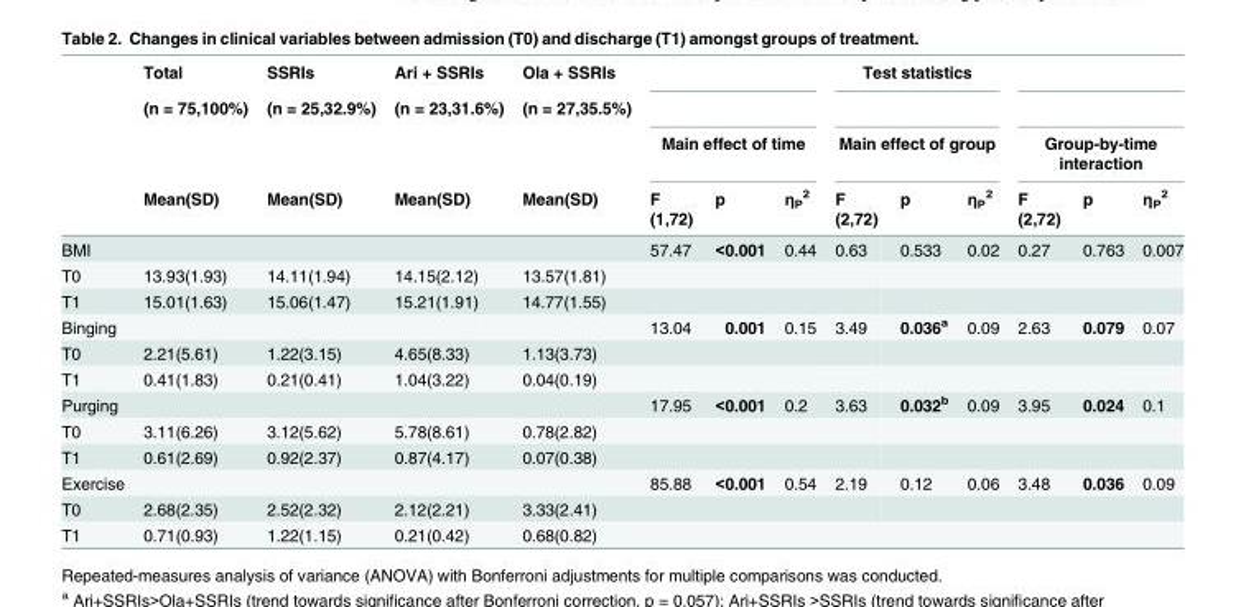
<table><thead><tr><td rowspan="4"></td><td rowspan="4">Total (n = 75,100%) Mean(SD)</td><td rowspan="4">SSRIs (n = 25,32.9%) Mean(SD)</td><td rowspan="4">Ari + SSRIs (n = 23,31.6%) Mean(SD)</td><td rowspan="4">Ola + SSRIs (n = 27,35.5%) Mean(SD)</td><td rowspan="2"></td><td rowspan="2"></td><td rowspan="2"></td><td colspan="3">Test statistics</td><td rowspan="2"></td><td rowspan="2"></td><td rowspan="2"></td></tr><tr><td></td><td></td><td></td></tr><tr><td colspan="3">Main effect of time</td><td colspan="3">Main effect of group</td><td colspan="3">Group-by-time interaction</td></tr><tr><td>F (1,72)</td><td>p</td><td>η<sub>P</sub> <sup>2</sup></td><td>F (2,72)</td><td>p</td><td>η<sub>P</sub> <sup>2</sup></td><td>F (2,72)</td><td>p</td><td>η<sub>P</sub> <sup>2</sup></td></tr></thead><tbody><tr><td>BMI</td><td></td><td></td><td></td><td></td><td>57.47</td><td>&lt;0.001</td><td>0.44</td><td>0.63</td><td>0.533</td><td>0.02</td><td>0.27</td><td>0.763</td><td>0.007</td></tr><tr><td>T0</td><td>13.93(1.93)</td><td>14.11(1.94)</td><td>14.15(2.12)</td><td>13.57(1.81)</td><td></td><td></td><td></td><td></td><td></td><td></td><td></td><td></td><td></td></tr><tr><td>T1</td><td>15.01(1.63)</td><td>15.06(1.47)</td><td>15.21(1.91)</td><td>14.77(1.55)</td><td></td><td></td><td></td><td></td><td></td><td></td><td></td><td></td><td></td></tr><tr><td>Binging</td><td></td><td></td><td></td><td></td><td>13.04</td><td>0.001</td><td>0.15</td><td>3.49</td><td>0.036<sup>a</sup></td><td>0.09</td><td>2.63</td><td>0.079</td><td>0.07</td></tr><tr><td>T0</td><td>2.21(5.61)</td><td>1.22(3.15)</td><td>4.65(8.33)</td><td>1.13(3.73)</td><td></td><td></td><td></td><td></td><td></td><td></td><td></td><td></td><td></td></tr><tr><td>T1</td><td>0.41(1.83)</td><td>0.21(0.41)</td><td>1.04(3.22)</td><td>0.04(0.19)</td><td></td><td></td><td></td><td></td><td></td><td></td><td></td><td></td><td></td></tr><tr><td>Purging</td><td></td><td></td><td></td><td></td><td>17.95</td><td>&lt;0.001</td><td>0.2</td><td>3.63</td><td>0.032<sup>b</sup></td><td>0.09</td><td>3.95</td><td>0.024</td><td>0.1</td></tr><tr><td>T0</td><td>3.11(6.26)</td><td>3.12(5.62)</td><td>5.78(8.61)</td><td>0.78(2.82)</td><td></td><td></td><td></td><td></td><td></td><td></td><td></td><td></td><td></td></tr><tr><td>T1</td><td>0.61(2.69)</td><td>0.92(2.37)</td><td>0.87(4.17)</td><td>0.07(0.38)</td><td></td><td></td><td></td><td></td><td></td><td></td><td></td><td></td><td></td></tr><tr><td>Exercise</td><td></td><td></td><td></td><td></td><td>85.88</td><td>&lt;0.001</td><td>0.54</td><td>2.19</td><td>0.12</td><td>0.06</td><td>3.48</td><td>0.036</td><td>0.09</td></tr><tr><td>T0</td><td>2.68(2.35)</td><td>2.52(2.32)</td><td>2.12(2.21)</td><td>3.33(2.41)</td><td></td><td></td><td></td><td></td><td></td><td></td><td></td><td></td><td></td></tr><tr><td>T1</td><td>0.71(0.93)</td><td>1.22(1.15)</td><td>0.21(0.42)</td><td>0.68(0.82)</td><td></td><td></td><td></td><td></td><td></td><td></td><td></td><td></td><td></td></tr></tbody></table>